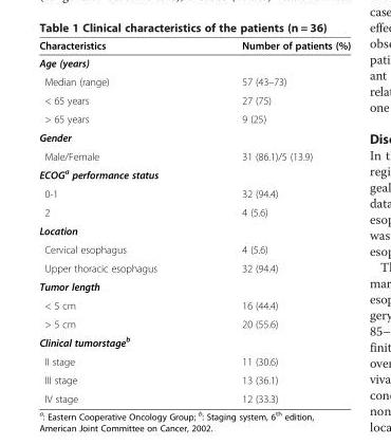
<table><thead><tr><td>Characteristics</td><td>Number of patients (%)</td></tr></thead><tbody><tr><td colspan="2">Age (years)</td></tr><tr><td>Median (range)</td><td>57 (43–73)</td></tr><tr><td>&lt; 65 years</td><td>27 (75)</td></tr><tr><td>&gt; 65 years</td><td>9 (25)</td></tr><tr><td colspan="2">Gender</td></tr><tr><td>Male/Female</td><td>31 (86.1)/5 (13.9)</td></tr><tr><td colspan="2">ECOG<sup>a</sup> performance status</td></tr><tr><td>0-1</td><td>32 (94.4)</td></tr><tr><td>2</td><td>4 (5.6)</td></tr><tr><td colspan="2">Location</td></tr><tr><td>Cervical esophagus</td><td>4 (5.6)</td></tr><tr><td>Upper thoracic esophagus</td><td>32 (94.4)</td></tr><tr><td colspan="2">Tumor length</td></tr><tr><td>&lt; 5 cm</td><td>16 (44.4)</td></tr><tr><td>&gt; 5 cm</td><td>20 (55.6)</td></tr><tr><td colspan="2">Clinical tumorstage<sup>b</sup></td></tr><tr><td>II stage</td><td>11 (30.6)</td></tr><tr><td>III stage</td><td>13 (36.1)</td></tr><tr><td>IV stage</td><td>12 (33.3)</td></tr></tbody></table>